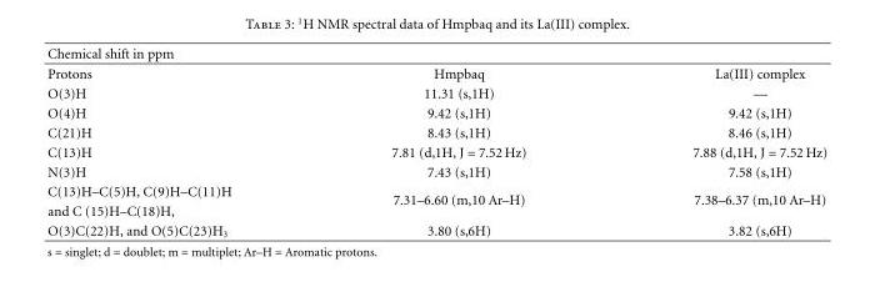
<table><thead><tr><td>Chemical shift in ppm</td><td></td><td></td></tr></thead><tbody><tr><td>Protons</td><td>Hmpbaq</td><td>La(III) complex</td></tr><tr><td>O(3)H</td><td>11.31 (s,1H)</td><td>—</td></tr><tr><td>O(4)H</td><td>9.42 (s,1H)</td><td>9.42 (s,1H)</td></tr><tr><td>C(21)H</td><td>8.43 (s,1H)</td><td>8.46 (s,1H)</td></tr><tr><td>C(13)H</td><td>7.81 (d,1H, J = 7.52 Hz)</td><td>7.88 (d,1H, J = 7.52 Hz)</td></tr><tr><td>N(3)H</td><td>7.43 (s,1H)</td><td>7.58 (s,1H)</td></tr><tr><td>C(13)H–C(5)H, C(9)H–C(11)H</td><td rowspan="2">7.31–6.60 (m,10 Ar–H)</td><td rowspan="2">7.38–6.37 (m,10 Ar–H)</td></tr><tr><td>and C (15)H–C(18)H,</td></tr><tr><td>O(3)C(22)H, and O(5)C(23)H<sub>3</sub></td><td>3.80 (s,6H)</td><td>3.82 (s,6H)</td></tr></tbody></table>